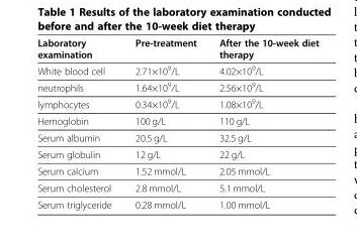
<table><thead><tr><td>Laboratory examination</td><td>Pre-treatment</td><td>After the 10-week diet therapy</td></tr></thead><tbody><tr><td>White blood cell</td><td>2.71×10<sup>9</sup>/L</td><td>4.02×10<sup>9</sup>/L</td></tr><tr><td>neutrophils</td><td>1.64×10<sup>9</sup>/L</td><td>2.56×10<sup>9</sup>/L</td></tr><tr><td>lymphocytes</td><td>0.34×10<sup>9</sup>/L</td><td>1.08×10<sup>9</sup>/L</td></tr><tr><td>Hemoglobin</td><td>100 g/L</td><td>110 g/L</td></tr><tr><td>Serum albumin</td><td>20.5 g/L</td><td>32.5 g/L</td></tr><tr><td>Serum globulin</td><td>12 g/L</td><td>22 g/L</td></tr><tr><td>Serum calcium</td><td>1.52 mmol/L</td><td>2.05 mmol/L</td></tr><tr><td>Serum cholesterol</td><td>2.8 mmol/L</td><td>5.1 mmol/L</td></tr><tr><td>Serum triglyceride</td><td>0.28 mmol/L</td><td>1.00 mmol/L</td></tr></tbody></table>